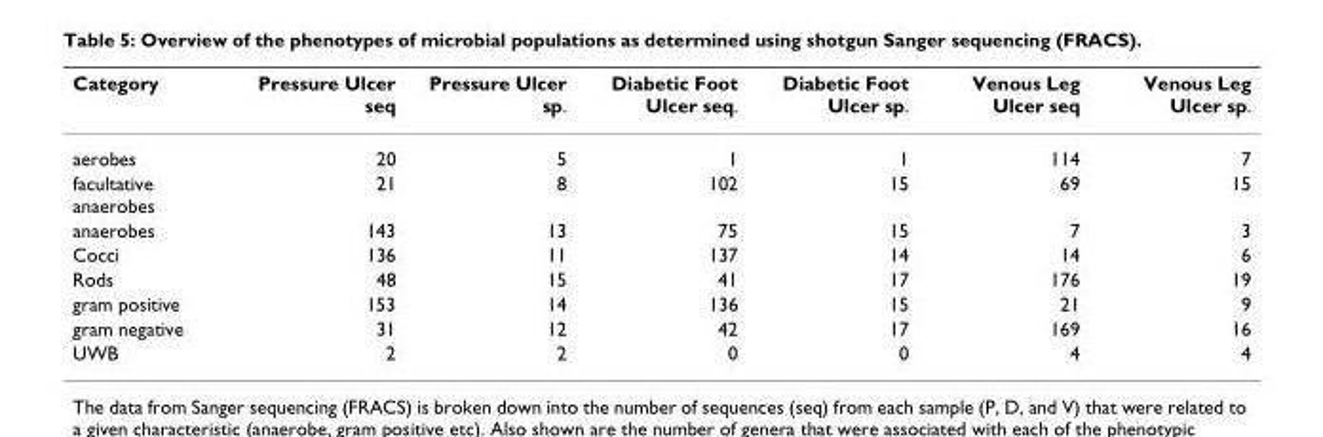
<table><thead><tr><td>Category</td><td>Pressure Ulcer seq</td><td>Pressure Ulcer sp.</td><td>Diabetic Foot Ulcer seq.</td><td>Diabetic Foot Ulcer sp.</td><td>Venous Leg Ulcer seq</td><td>Venous Leg Ulcer sp.</td></tr></thead><tbody><tr><td>aerobes</td><td>20</td><td>5</td><td>1</td><td>1</td><td>114</td><td>7</td></tr><tr><td>facultative anaerobes</td><td>21</td><td>8</td><td>102</td><td>15</td><td>69</td><td>15</td></tr><tr><td>anaerobes</td><td>143</td><td>13</td><td>75</td><td>15</td><td>7</td><td>3</td></tr><tr><td>Cocci</td><td>136</td><td>11</td><td>137</td><td>14</td><td>14</td><td>6</td></tr><tr><td>Rods</td><td>48</td><td>15</td><td>41</td><td>17</td><td>176</td><td>19</td></tr><tr><td>gram positive</td><td>153</td><td>14</td><td>136</td><td>15</td><td>21</td><td>9</td></tr><tr><td>gram negative</td><td>31</td><td>12</td><td>42</td><td>17</td><td>169</td><td>16</td></tr><tr><td>UWB</td><td>2</td><td>2</td><td>0</td><td>0</td><td>4</td><td>4</td></tr></tbody></table>